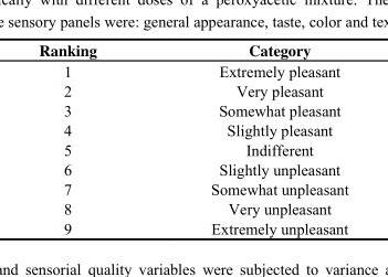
<table><thead><tr><td>Ranking</td><td>Category</td></tr></thead><tbody><tr><td>1</td><td>Extremely pleasant</td></tr><tr><td>2</td><td>Very pleasant</td></tr><tr><td>3</td><td>Somewhat pleasant</td></tr><tr><td>4</td><td>Slightly pleasant</td></tr><tr><td>5</td><td>Indifferent</td></tr><tr><td>6</td><td>Slightly unpleasant</td></tr><tr><td>7</td><td>Somewhat unpleasant</td></tr><tr><td>8</td><td>Very unpleasant</td></tr><tr><td>9</td><td>Extremely unpleasant</td></tr></tbody></table>